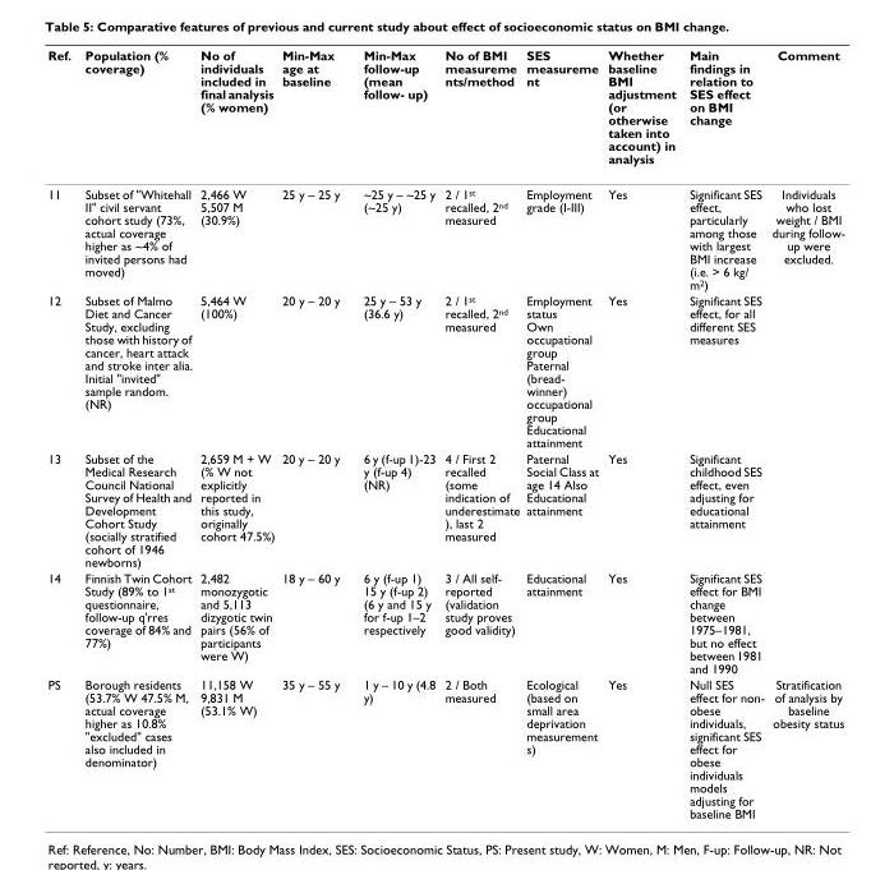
<table><thead><tr><td>Ref.</td><td>Population (% coverage)</td><td>No of individuals included in final analysis (% women)</td><td>Min-Max age at baseline</td><td>Min-Max follow-up (mean follow- up)</td><td>No of BMI measureme nts/method</td><td>SES measureme nt</td><td>Whether baseline BMI adjustment (or otherwise taken into account) in analysis</td><td>Main findings in relation to SES effect on BMI change</td><td>Comment</td></tr></thead><tbody><tr><td>11</td><td>Subset of &quot;Whitehall II&quot; civil servant cohort study (73%, actual coverage higher as ~4% of invited persons had moved)</td><td>2,466 W 5,507 M (30.9%)</td><td>25 y – 25 y</td><td>~25 y – ~25 y (~25 y)</td><td>2 / 1<sup>st</sup> recalled, 2<sup>nd</sup> measured</td><td>Employment grade (I-III)</td><td>Yes</td><td>Significant SES effect, particularly among those with largest BMI increase (i.e. &gt; 6 kg/ m<sup>2</sup>)</td><td>Individuals who lost weight / BMI during follow- up were excluded.</td></tr><tr><td>12</td><td>Subset of Malmo Diet and Cancer Study, excluding those with history of cancer, heart attack and stroke inter alia. Initial &quot;invited&quot; sample random. (NR)</td><td>5,464 W (100%)</td><td>20 y – 20 y</td><td>25 y – 53 y (36.6 y)</td><td>2 / 1<sup>st</sup> recalled, 2<sup>nd</sup> measured</td><td>Employment status Own occupational group Paternal (bread- winner) occupational group Educational attainment</td><td>Yes</td><td>Significant SES effect, for all different SES measures</td><td></td></tr><tr><td>13</td><td>Subset of the Medical Research Council National Survey of Health and Development Cohort Study (socially stratified cohort of 1946 newborns)</td><td>2,659 M + W (% W not explicitly reported in this study, originally cohort 47.5%)</td><td>20 y – 20 y</td><td>6 y (f-up 1)-23 y (f-up 4) (NR)</td><td>4 / First 2 recalled (some indication of underestimate ), last 2 measured</td><td>Paternal Social Class at age 14 Also Educational attainment</td><td>Yes</td><td>Significant childhood SES effect, even adjusting for educational attainment</td><td></td></tr><tr><td>14</td><td>Finnish Twin Cohort Study (89% to 1<sup>st</sup> questionnaire, follow-up q&#x27;rres coverage of 84% and 77%)</td><td>2,482 monozygotic and 5,113 dizygotic twin pairs (56% of participants were W)</td><td>18 y – 60 y</td><td>6 y (f-up 1) 15 y (f-up 2) (6 y and 15 y for f-up 1–2 respectively</td><td>3 / All self- reported (validation study proves good validity)</td><td>Educational attainment</td><td>Yes</td><td>Significant SES effect for BMI change between 1975–1981, but no effect between 1981 and 1990</td><td></td></tr><tr><td>PS</td><td>Borough residents (53.7% W 47.5% M, actual coverage higher as 10.8% &quot;excluded&quot; cases also included in denominator)</td><td>11,158 W 9,831 M (53.1% W)</td><td>35 y – 55 y</td><td>1 y – 10 y (4.8 y)</td><td>2 / Both measured</td><td>Ecological (based on small area deprivation measurement s)</td><td>Yes</td><td>Null SES effect for non- obese individuals, significant SES effect for obese individuals models adjusting for baseline BMI</td><td>Stratification of analysis by baseline obesity status</td></tr></tbody></table>